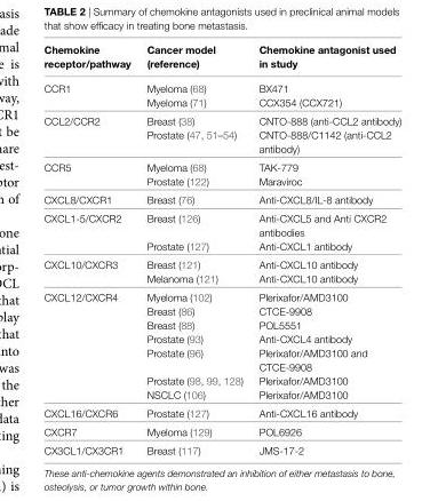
<table><thead><tr><td>Chemokine receptor/pathway</td><td>Cancer model (reference)</td><td>Chemokine antagonist used in study</td></tr></thead><tbody><tr><td rowspan="2">CCR1</td><td>Myeloma (68)</td><td>BX471</td></tr><tr><td>Myeloma (71)</td><td>CCX354 (CCX721)</td></tr><tr><td rowspan="2">CCL2/CCR2</td><td>Breast (38)</td><td>CNTO-888 (anti-CCL2 antibody)</td></tr><tr><td>Prostate (47, 51–54)</td><td>CNTO-888/C1142 (anti-CCL2 antibody)</td></tr><tr><td rowspan="2">CCR5</td><td>Myeloma (68)</td><td>TAK-779</td></tr><tr><td>Prostate (122)</td><td>Maraviroc</td></tr><tr><td>CXCL8/CXCR1</td><td>Breast (76)</td><td>Anti-CXCL8/IL-8 antibody</td></tr><tr><td rowspan="2">CXCL1-5/CXCR2</td><td>Breast (126)</td><td>Anti-CXCL5 and Anti CXCR2 antibodies</td></tr><tr><td>Prostate (127)</td><td>Anti-CXCL1 antibody</td></tr><tr><td rowspan="2">CXCL10/CXCR3</td><td>Breast (121)</td><td>Anti-CXCL10 antibody</td></tr><tr><td>Melanoma (121)</td><td>Anti-CXCL10 antibody</td></tr><tr><td rowspan="7">CXCL12/CXCR4</td><td>Myeloma (102)</td><td>Plerixafor/AMD3100</td></tr><tr><td>Breast (86)</td><td>CTCE-9908</td></tr><tr><td>Breast (88)</td><td>POL5551</td></tr><tr><td>Prostate (93)</td><td>Anti-CXCL4 antibody</td></tr><tr><td>Prostate (96)</td><td>Plerixafor/AMD3100 and CTCE-9908</td></tr><tr><td>Prostate (98, 99, 128)</td><td>Plerixafor/AMD3100</td></tr><tr><td>NSCLC (106)</td><td>Plerixafor/AMD3100</td></tr><tr><td>CXCL16/CXCR6</td><td>Prostate (127)</td><td>Anti-CXCL16 antibody</td></tr><tr><td>CXCR7</td><td>Myeloma (129)</td><td>POL6926</td></tr><tr><td>CX3CL1/CX3CR1</td><td>Breast (117)</td><td>JMS-17-2</td></tr></tbody></table>